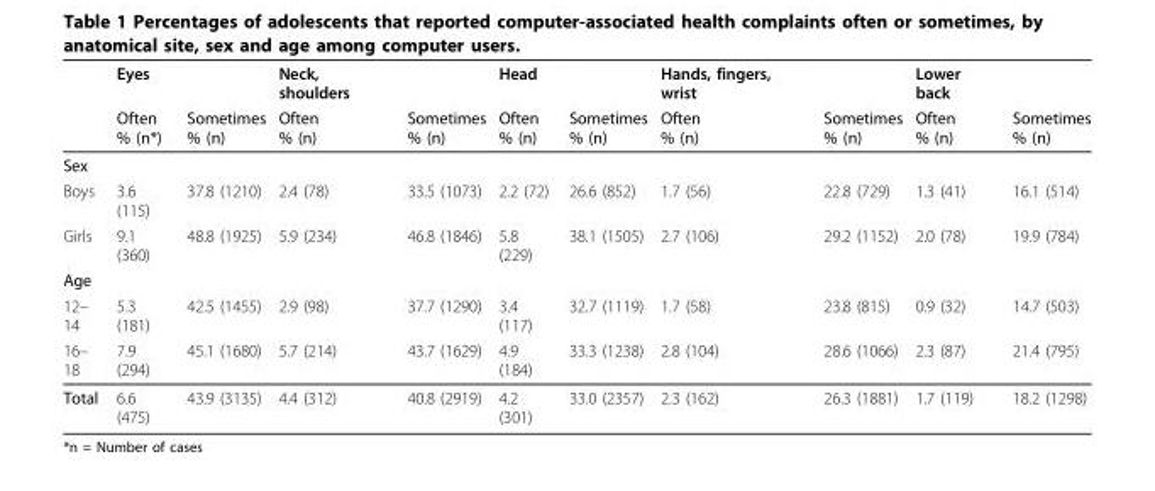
<table><thead><tr><td rowspan="2"></td><td rowspan="2">Eyes Often % (n*)</td><td rowspan="2">Sometimes % (n)</td><td rowspan="2">Neck, shoulders Often % (n)</td><td rowspan="2">Sometimes % (n)</td><td rowspan="2">Head Often % (n)</td><td rowspan="2">Sometimes % (n)</td><td rowspan="2">Hands, fingers, wrist Often % (n)</td><td rowspan="2">Sometimes % (n)</td><td rowspan="2">Lower back Often % (n)</td><td rowspan="2">Sometimes % (n)</td></tr><tr></tr></thead><tbody><tr><td colspan="11">Sex</td></tr><tr><td>Boys</td><td>3.6 (115)</td><td>37.8 (1210)</td><td>2.4 (78)</td><td>33.5 (1073)</td><td>2.2 (72)</td><td>26.6 (852)</td><td>1.7 (56)</td><td>22.8 (729)</td><td>1.3 (41)</td><td>16.1 (514)</td></tr><tr><td>Girls</td><td>9.1 (360)</td><td>48.8 (1925)</td><td>5.9 (234)</td><td>46.8 (1846)</td><td>5.8 (229)</td><td>38.1 (1505)</td><td>2.7 (106)</td><td>29.2 (1152)</td><td>2.0 (78)</td><td>19.9 (784)</td></tr><tr><td colspan="11">Age</td></tr><tr><td>12– 14</td><td>5.3 (181)</td><td>42.5 (1455)</td><td>2.9 (98)</td><td>37.7 (1290)</td><td>3.4 (117)</td><td>32.7 (1119)</td><td>1.7 (58)</td><td>23.8 (815)</td><td>0.9 (32)</td><td>14.7 (503)</td></tr><tr><td>16– 18</td><td>7.9 (294)</td><td>45.1 (1680)</td><td>5.7 (214)</td><td>43.7 (1629)</td><td>4.9 (184)</td><td>33.3 (1238)</td><td>2.8 (104)</td><td>28.6 (1066)</td><td>2.3 (87)</td><td>21.4 (795)</td></tr><tr><td>Total</td><td>6.6 (475)</td><td>43.9 (3135)</td><td>4.4 (312)</td><td>40.8 (2919)</td><td>4.2 (301)</td><td>33.0 (2357)</td><td>2.3 (162)</td><td>26.3 (1881)</td><td>1.7 (119)</td><td>18.2 (1298)</td></tr></tbody></table>